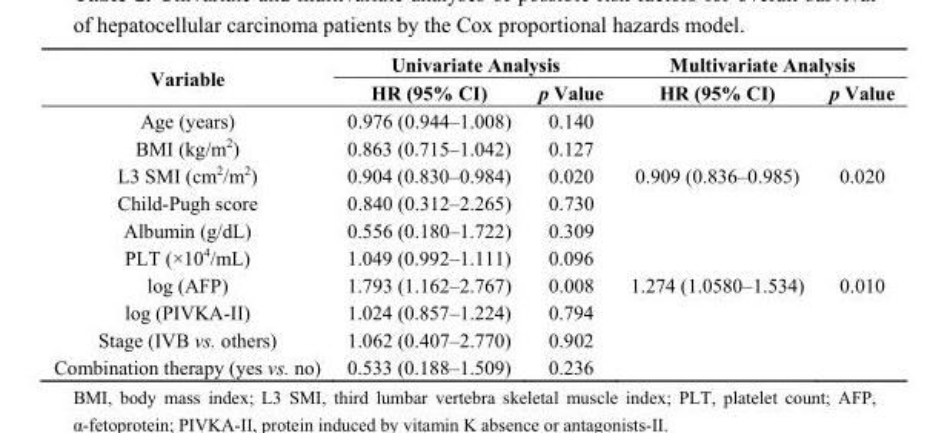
<table><thead><tr><td rowspan="2">Variable</td><td colspan="2">Univariate Analysis</td><td colspan="2">Multivariate Analysis</td></tr><tr><td>HR (95% CI)</td><td>p Value</td><td>HR (95% CI)</td><td>p Value</td></tr></thead><tbody><tr><td>Age (years)</td><td>0.976 (0.944–1.008)</td><td>0.140</td><td></td><td></td></tr><tr><td>BMI (kg/m<sup>2</sup>)</td><td>0.863 (0.715–1.042)</td><td>0.127</td><td></td><td></td></tr><tr><td>L3 SMI (cm<sup>2</sup>/m<sup>2</sup>)</td><td>0.904 (0.830–0.984)</td><td>0.020</td><td>0.909 (0.836–0.985)</td><td>0.020</td></tr><tr><td>Child-Pugh score</td><td>0.840 (0.312–2.265)</td><td>0.730</td><td></td><td></td></tr><tr><td>Albumin (g/dL)</td><td>0.556 (0.180–1.722)</td><td>0.309</td><td></td><td></td></tr><tr><td>PLT (×10<sup>4</sup>/mL)</td><td>1.049 (0.992–1.111)</td><td>0.096</td><td></td><td></td></tr><tr><td>log (AFP)</td><td>1.793 (1.162–2.767)</td><td>0.008</td><td>1.274 (1.0580–1.534)</td><td>0.010</td></tr><tr><td>log (PIVKA-II)</td><td>1.024 (0.857–1.224)</td><td>0.794</td><td></td><td></td></tr><tr><td>Stage (IVB vs. others)</td><td>1.062 (0.407–2.770)</td><td>0.902</td><td></td><td></td></tr><tr><td>Combination therapy (yes vs. no)</td><td>0.533 (0.188–1.509)</td><td>0.236</td><td></td><td></td></tr></tbody></table>